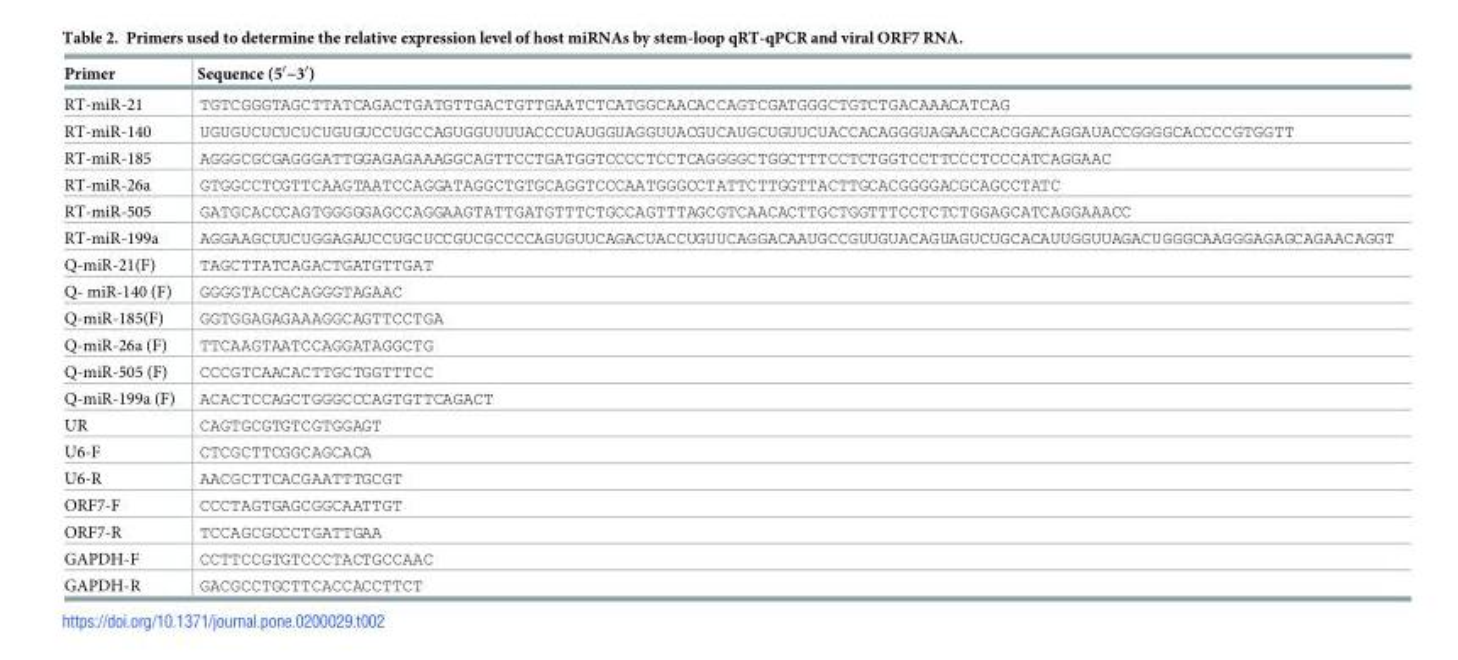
<table><thead><tr><td>Primer</td><td>Sequence (5′−3′)</td></tr></thead><tbody><tr><td>RT-miR-21</td><td>TGTCGGGTAGCTTATCAGACTGATGTTGACTGTTGAATCTCATGGCAACACCAGTCGATGGGCTGTCTGACAAACATCAG</td></tr><tr><td>RT-miR-140</td><td>UGUGUCUCUCUCUGUGUCCUGCCAGUGGUUUUACCCUAUGGUAGGUUACGUCAUGCUGUUCUACCACAGGGUAGAACCACGGACAGGAUACCGGGGCACCCCGTGGTT</td></tr><tr><td>RT-miR-185</td><td>AGGGCGCGAGGGATTGGAGAGAAAGGCAGTTCCTGATGGTCCCCTCCTCAGGGGCTGGCTTTCCTCTGGTCCTTCCCTCCCATCAGGAAC</td></tr><tr><td>RT-miR-26a</td><td>GTGGCCTCGTTCAAGTAATCCAGGATAGGCTGTGCAGGTCCCAATGGGCCTATTCTTGGTTACTTGCACGGGGACGCAGCCTATC</td></tr><tr><td>RT-miR-505</td><td>GATGCACCCAGTGGGGGAGCCAGGAAGTATTGATGTTTCTGCCAGTTTAGCGTCAACACTTGCTGGTTTCCTCTCTGGAGCATCAGGAAACC</td></tr><tr><td>RT-miR-199a</td><td>AGGAAGCUUCUGGAGAUCCUGCUCCGUCGCCCCAGUGUUCAGACUACCUGUUCAGGACAAUGCCGUUGUACAGUAGUCUGCACAUUGGUUAGACUGGGCAAGGGAGAGCAGAACAGGT</td></tr><tr><td>Q-miR-21(F)</td><td>TAGCTTATCAGACTGATGTTGAT</td></tr><tr><td>Q- miR-140 (F)</td><td>GGGGTACCACAGGGTAGAAC</td></tr><tr><td>Q-miR-185(F)</td><td>GGTGGAGAGAAAGGCAGTTCCTGA</td></tr><tr><td>Q-miR-26a (F)</td><td>TTCAAGTAATCCAGGATAGGCTG</td></tr><tr><td>Q-miR-505 (F)</td><td>CCCGTCAACACTTGCTGGTTTCC</td></tr><tr><td>Q-miR-199a (F)</td><td>ACACTCCAGCTGGGCCCAGTGTTCAGACT</td></tr><tr><td>UR</td><td>CAGTGCGTGTCGTGGAGT</td></tr><tr><td>U6-F</td><td>CTCGCTTCGGCAGCACA</td></tr><tr><td>U6-R</td><td>AACGCTTCACGAATTTGCGT</td></tr><tr><td>ORF7-F</td><td>CCCTAGTGAGCGGCAATTGT</td></tr><tr><td>ORF7-R</td><td>TCCAGCGCCCTGATTGAA</td></tr><tr><td>GAPDH-F</td><td>CCTTCCGTGTCCCTACTGCCAAC</td></tr><tr><td>GAPDH-R</td><td>GACGCCTGCTTCACCACCTTCT</td></tr></tbody></table>